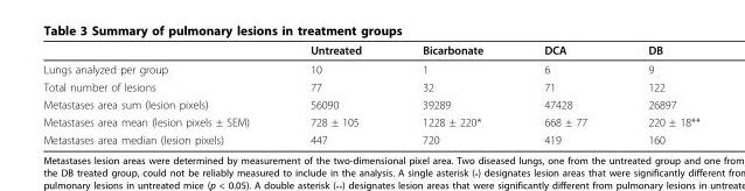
<table><thead><tr><td></td><td>Untreated</td><td>Bicarbonate</td><td>DCA</td><td>DB</td></tr></thead><tbody><tr><td>Lungs analyzed per group</td><td>10</td><td>1</td><td>6</td><td>9</td></tr><tr><td>Total number of lesions</td><td>77</td><td>32</td><td>71</td><td>122</td></tr><tr><td>Metastases area sum (lesion pixels)</td><td>56090</td><td>39289</td><td>47428</td><td>26897</td></tr><tr><td>Metastases area mean (lesion pixels ± SEM)</td><td>728 ± 105</td><td>1228 ± 220*</td><td>668 ± 77</td><td>220 ± 18**</td></tr><tr><td>Metastases area median (lesion pixels)</td><td>447</td><td>720</td><td>419</td><td>160</td></tr></tbody></table>